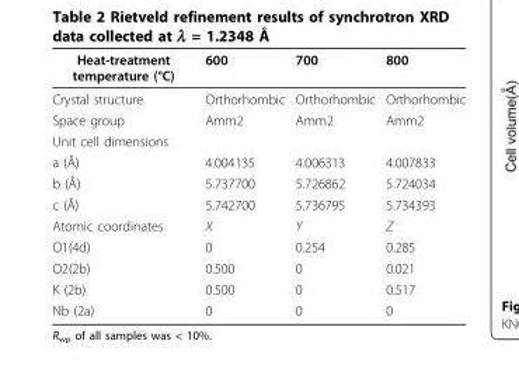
<table><thead><tr><td>Heat-treatment temperature (°C)</td><td>600</td><td>700</td><td>800</td></tr></thead><tbody><tr><td>Crystal structure</td><td>Orthorhombic</td><td>Orthorhombic</td><td>Orthorhombic</td></tr><tr><td>Space group</td><td>Amm2</td><td>Amm2</td><td>Amm2</td></tr><tr><td colspan="4">Unit cell dimensions</td></tr><tr><td>a (Å)</td><td>4.004135</td><td>4.006313</td><td>4.007833</td></tr><tr><td>b (Å)</td><td>5.737700</td><td>5.726862</td><td>5.724034</td></tr><tr><td>c (Å)</td><td>5.742700</td><td>5.736795</td><td>5.734393</td></tr><tr><td>Atomic coordinates</td><td>X</td><td>Y</td><td>Z</td></tr><tr><td>O1(4d)</td><td>0</td><td>0.254</td><td>0.285</td></tr><tr><td>O2(2b)</td><td>0.500</td><td>0</td><td>0.021</td></tr><tr><td>K (2b)</td><td>0.500</td><td>0</td><td>0.517</td></tr><tr><td>Nb (2a)</td><td>0</td><td>0</td><td>0</td></tr></tbody></table>